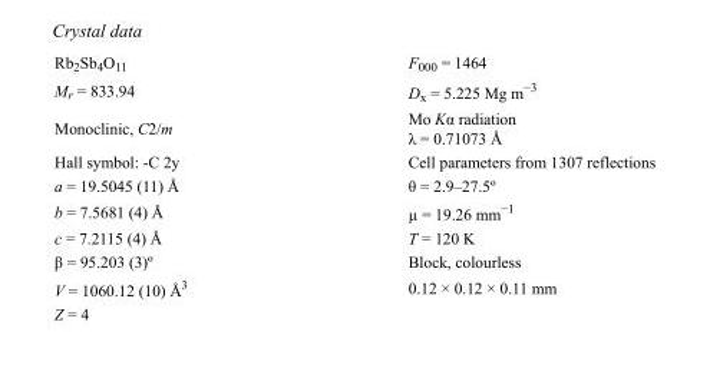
<table><tbody><tr><td>Rb<sub>2</sub>Sb<sub>4</sub>O<sub>11</sub></td><td>F000 = 1464</td></tr><tr><td>M<sub>r</sub> = 833.94</td><td>D<sub>x</sub> = 5.225 Mg m<sup>−3</sup></td></tr><tr><td>Monoclinic, C2/m</td><td>Mo Kα radiation λ = 0.71073 Å</td></tr><tr><td>Hall symbol: -C 2y</td><td>Cell parameters from 1307 reflections</td></tr><tr><td>a = 19.5045 (11) Å</td><td>θ = 2.9–27.5º</td></tr><tr><td>b = 7.5681 (4) Å</td><td>µ = 19.26 mm<sup>−1</sup></td></tr><tr><td>c = 7.2115 (4) Å</td><td>T = 120 K</td></tr><tr><td>β = 95.203 (3)º</td><td>Block, colourless</td></tr><tr><td>V = 1060.12 (10) Å<sup>3</sup></td><td>0.12 × 0.12 × 0.11 mm</td></tr><tr><td>Z = 4</td><td></td></tr></tbody></table>